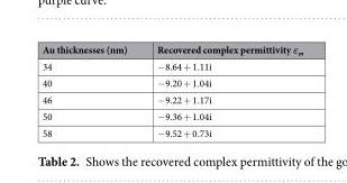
<table><thead><tr><td>Au thicknesses (nm)</td><td>Recovered complex permittivity ε<sub>m</sub></td></tr></thead><tbody><tr><td>34</td><td>−8.64 + 1.11i</td></tr><tr><td>40</td><td>−9.20 + 1.04i</td></tr><tr><td>46</td><td>−9.22 + 1.17i</td></tr><tr><td>50</td><td>−9.36 + 1.04i</td></tr><tr><td>58</td><td>−9.52 + 0.73i</td></tr></tbody></table>